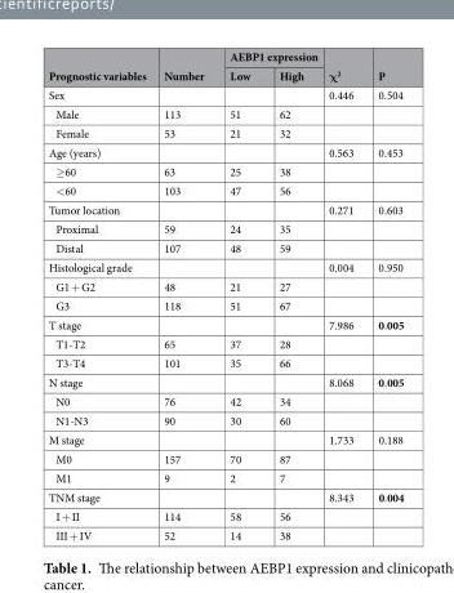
<table><thead><tr><td rowspan="2">Prognostic variables</td><td rowspan="2">Number</td><td colspan="2">AEBP1 expression</td><td rowspan="2">χ<sup>2</sup></td><td rowspan="2">P</td></tr><tr><td>Low</td><td>High</td></tr></thead><tbody><tr><td>Sex</td><td></td><td></td><td></td><td>0.446</td><td>0.504</td></tr><tr><td>Male</td><td>113</td><td>51</td><td>62</td><td></td><td></td></tr><tr><td>Female</td><td>53</td><td>21</td><td>32</td><td></td><td></td></tr><tr><td>Age (years)</td><td></td><td></td><td></td><td>0.563</td><td>0.453</td></tr><tr><td>≥60</td><td>63</td><td>25</td><td>38</td><td></td><td></td></tr><tr><td>&lt;60</td><td>103</td><td>47</td><td>56</td><td></td><td></td></tr><tr><td>Tumor location</td><td></td><td></td><td></td><td>0.271</td><td>0.603</td></tr><tr><td>Proximal</td><td>59</td><td>24</td><td>35</td><td></td><td></td></tr><tr><td>Distal</td><td>107</td><td>48</td><td>59</td><td></td><td></td></tr><tr><td>Histological grade</td><td></td><td></td><td></td><td>0.004</td><td>0.950</td></tr><tr><td>G1 + G2</td><td>48</td><td>21</td><td>27</td><td></td><td></td></tr><tr><td>G3</td><td>118</td><td>51</td><td>67</td><td></td><td></td></tr><tr><td>T stage</td><td></td><td></td><td></td><td>7.986</td><td>0.005</td></tr><tr><td>T1-T2</td><td>65</td><td>37</td><td>28</td><td></td><td></td></tr><tr><td>T3-T4</td><td>101</td><td>35</td><td>66</td><td></td><td></td></tr><tr><td>N stage</td><td></td><td></td><td></td><td>8.068</td><td>0.005</td></tr><tr><td>N0</td><td>76</td><td>42</td><td>34</td><td></td><td></td></tr><tr><td>N1-N3</td><td>90</td><td>30</td><td>60</td><td></td><td></td></tr><tr><td>M stage</td><td></td><td></td><td></td><td>1.733</td><td>0.188</td></tr><tr><td>M0</td><td>157</td><td>70</td><td>87</td><td></td><td></td></tr><tr><td>M1</td><td>9</td><td>2</td><td>7</td><td></td><td></td></tr><tr><td>TNM stage</td><td></td><td></td><td></td><td>8.343</td><td>0.004</td></tr><tr><td>I + II</td><td>114</td><td>58</td><td>56</td><td></td><td></td></tr><tr><td>III + IV</td><td>52</td><td>14</td><td>38</td><td></td><td></td></tr></tbody></table>